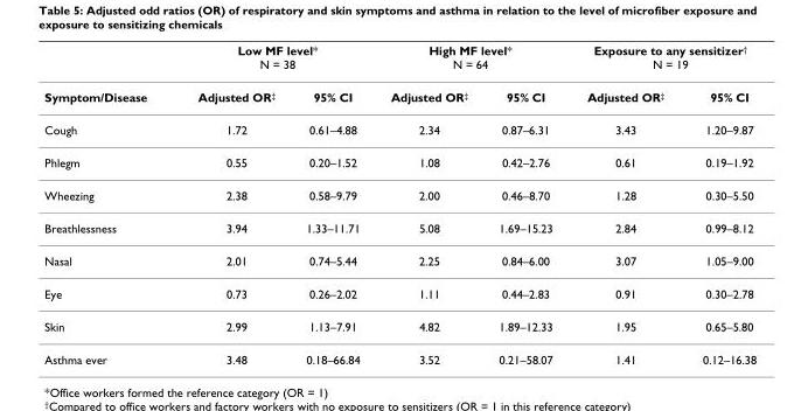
<table><thead><tr><td rowspan="2">Symptom/Disease</td><td colspan="2">Low MF level* N = 38</td><td colspan="2">High MF level* N = 64</td><td colspan="2">Exposure to any sensitizer<sup>†</sup> N = 19</td></tr><tr><td>Adjusted OR<sup>‡</sup></td><td>95% CI</td><td>Adjusted OR<sup>‡</sup></td><td>95% CI</td><td>Adjusted OR<sup>‡</sup></td><td>95% CI</td></tr></thead><tbody><tr><td>Cough</td><td>1.72</td><td>0.61–4.88</td><td>2.34</td><td>0.87–6.31</td><td>3.43</td><td>1.20–9.87</td></tr><tr><td>Phlegm</td><td>0.55</td><td>0.20–1.52</td><td>1.08</td><td>0.42–2.76</td><td>0.61</td><td>0.19–1.92</td></tr><tr><td>Wheezing</td><td>2.38</td><td>0.58–9.79</td><td>2.00</td><td>0.46–8.70</td><td>1.28</td><td>0.30–5.50</td></tr><tr><td>Breathlessness</td><td>3.94</td><td>1.33–11.71</td><td>5.08</td><td>1.69–15.23</td><td>2.84</td><td>0.99–8.12</td></tr><tr><td>Nasal</td><td>2.01</td><td>0.74–5.44</td><td>2.25</td><td>0.84–6.00</td><td>3.07</td><td>1.05–9.00</td></tr><tr><td>Eye</td><td>0.73</td><td>0.26–2.02</td><td>1.11</td><td>0.44–2.83</td><td>0.91</td><td>0.30–2.78</td></tr><tr><td>Skin</td><td>2.99</td><td>1.13–7.91</td><td>4.82</td><td>1.89–12.33</td><td>1.95</td><td>0.65–5.80</td></tr><tr><td>Asthma ever</td><td>3.48</td><td>0.18–66.84</td><td>3.52</td><td>0.21–58.07</td><td>1.41</td><td>0.12–16.38</td></tr></tbody></table>